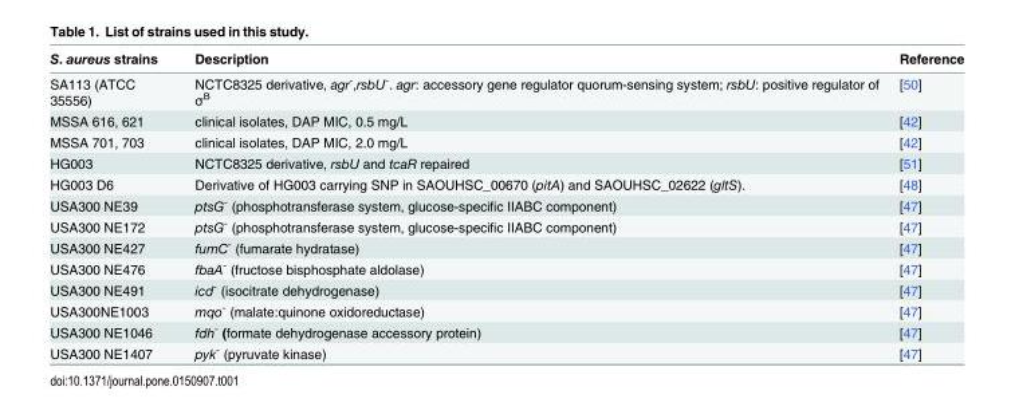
<table><thead><tr><td>S. aureus strains</td><td>Description</td><td>Reference</td></tr></thead><tbody><tr><td>SA113 (ATCC 35556)</td><td>NCTC8325 derivative, agr<sup>-</sup>,rsbU<sup>-</sup>. agr: accessory gene regulator quorum-sensing system; rsbU: positive regulator of σ<sup>B</sup></td><td>[50]</td></tr><tr><td>MSSA 616, 621</td><td>clinical isolates, DAP MIC, 0.5 mg/L</td><td>[42]</td></tr><tr><td>MSSA 701, 703</td><td>clinical isolates, DAP MIC, 2.0 mg/L</td><td>[42]</td></tr><tr><td>HG003</td><td>NCTC8325 derivative, rsbU and tcaR repaired</td><td>[51]</td></tr><tr><td>HG003 D6</td><td>Derivative of HG003 carrying SNP in SAOUHSC_00670 (pitA) and SAOUHSC_02622 (gltS).</td><td>[48]</td></tr><tr><td>USA300 NE39</td><td>ptsG<sup>-</sup> (phosphotransferase system, glucose-specific IIABC component)</td><td>[47]</td></tr><tr><td>USA300 NE172</td><td>ptsG<sup>-</sup> (phosphotransferase system, glucose-specific IIABC component)</td><td>[47]</td></tr><tr><td>USA300 NE427</td><td>fumC<sup>-</sup> (fumarate hydratase)</td><td>[47]</td></tr><tr><td>USA300 NE476</td><td>fbaA<sup>-</sup> (fructose bisphosphate aldolase)</td><td>[47]</td></tr><tr><td>USA300 NE491</td><td>icd<sup>-</sup> (isocitrate dehydrogenase)</td><td>[47]</td></tr><tr><td>USA300NE1003</td><td>mqo<sup>-</sup> (malate:quinone oxidoreductase)</td><td>[47]</td></tr><tr><td>USA300 NE1046</td><td>fdh<sup>-</sup> (formate dehydrogenase accessory protein)</td><td>[47]</td></tr><tr><td>USA300 NE1407</td><td>pyk<sup>-</sup> (pyruvate kinase)</td><td>[47]</td></tr></tbody></table>